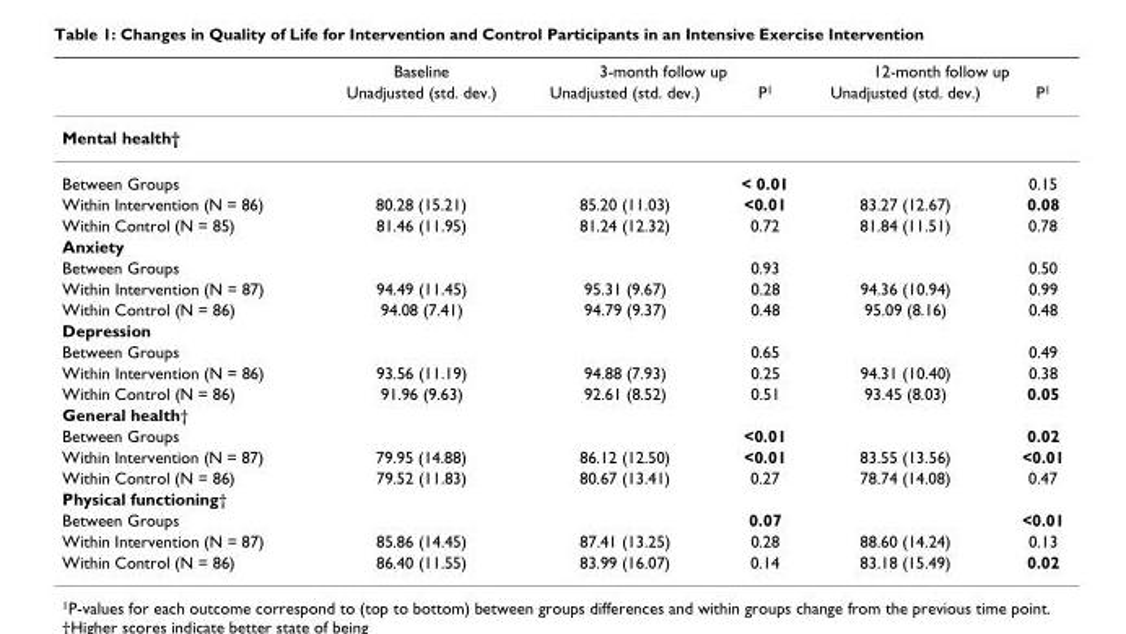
<table><thead><tr><td rowspan="2"></td><td rowspan="2">Baseline Unadjusted (std. dev.)</td><td colspan="2">3-month follow up</td><td colspan="2">12-month follow up</td></tr><tr><td>Unadjusted (std. dev.)</td><td>P1</td><td>Unadjusted (std. dev.)</td><td>P1</td></tr></thead><tbody><tr><td colspan="6">Mental health†</td></tr><tr><td>Between Groups</td><td></td><td></td><td>&lt; 0.01</td><td></td><td>0.15</td></tr><tr><td>Within Intervention (N = 86)</td><td>80.28 (15.21)</td><td>85.20 (11.03)</td><td>&lt;0.01</td><td>83.27 (12.67)</td><td>0.08</td></tr><tr><td>Within Control (N = 85)</td><td>81.46 (11.95)</td><td>81.24 (12.32)</td><td>0.72</td><td>81.84 (11.51)</td><td>0.78</td></tr><tr><td colspan="6">Anxiety</td></tr><tr><td>Between Groups</td><td></td><td></td><td>0.93</td><td></td><td>0.50</td></tr><tr><td>Within Intervention (N = 87)</td><td>94.49 (11.45)</td><td>95.31 (9.67)</td><td>0.28</td><td>94.36 (10.94)</td><td>0.99</td></tr><tr><td>Within Control (N = 86)</td><td>94.08 (7.41)</td><td>94.79 (9.37)</td><td>0.48</td><td>95.09 (8.16)</td><td>0.48</td></tr><tr><td colspan="6">Depression</td></tr><tr><td>Between Groups</td><td></td><td></td><td>0.65</td><td></td><td>0.49</td></tr><tr><td>Within Intervention (N = 86)</td><td>93.56 (11.19)</td><td>94.88 (7.93)</td><td>0.25</td><td>94.31 (10.40)</td><td>0.38</td></tr><tr><td>Within Control (N = 86)</td><td>91.96 (9.63)</td><td>92.61 (8.52)</td><td>0.51</td><td>93.45 (8.03)</td><td>0.05</td></tr><tr><td colspan="6">General health†</td></tr><tr><td>Between Groups</td><td></td><td></td><td>&lt;0.01</td><td></td><td>0.02</td></tr><tr><td>Within Intervention (N = 87)</td><td>79.95 (14.88)</td><td>86.12 (12.50)</td><td>&lt;0.01</td><td>83.55 (13.56)</td><td>&lt;0.01</td></tr><tr><td>Within Control (N = 86)</td><td>79.52 (11.83)</td><td>80.67 (13.41)</td><td>0.27</td><td>78.74 (14.08)</td><td>0.47</td></tr><tr><td colspan="6">Physical functioning†</td></tr><tr><td>Between Groups</td><td></td><td></td><td>0.07</td><td></td><td>&lt;0.01</td></tr><tr><td>Within Intervention (N = 87)</td><td>85.86 (14.45)</td><td>87.41 (13.25)</td><td>0.28</td><td>88.60 (14.24)</td><td>0.13</td></tr><tr><td>Within Control (N = 86)</td><td>86.40 (11.55)</td><td>83.99 (16.07)</td><td>0.14</td><td>83.18 (15.49)</td><td>0.02</td></tr></tbody></table>